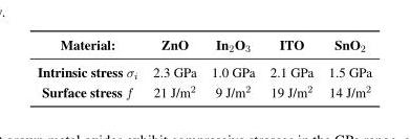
<table><thead><tr><td>Material:</td><td>ZnO</td><td>In<sub>2</sub>O<sub>3</sub></td><td>ITO</td><td>SnO<sub>2</sub></td></tr></thead><tbody><tr><td>Intrinsic stress σ<sub>i</sub></td><td>2.3 GPa</td><td>1.0 GPa</td><td>2.1 GPa</td><td>1.5 GPa</td></tr><tr><td>Surface stress f</td><td>21 J/m<sup>2</sup></td><td>9 J/m<sup>2</sup></td><td>19 J/m<sup>2</sup></td><td>14 J/m<sup>2</sup></td></tr></tbody></table>